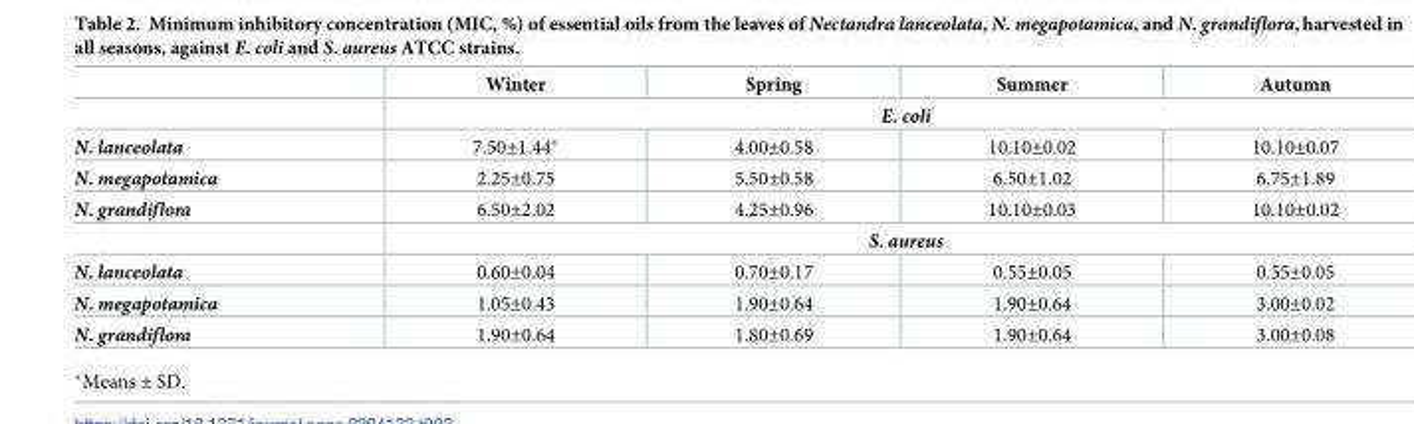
<table><thead><tr><td></td><td>Winter</td><td>Spring</td><td>Summer</td><td>Autumn</td></tr></thead><tbody><tr><td></td><td colspan="4">E. coli</td></tr><tr><td>N. lanceolata</td><td>7.50±1.44*</td><td>4.00±0.58</td><td>10.10±0.02</td><td>10.10±0.07</td></tr><tr><td>N. megapotamica</td><td>2.25±0.75</td><td>5.50±0.58</td><td>6.50±1.02</td><td>6.75±1.89</td></tr><tr><td rowspan="2">N. grandiflora</td><td>6.50±2.02</td><td>4.25±0.96</td><td>10.10±0.03</td><td>10.10±0.02</td></tr><tr><td colspan="4">S. aureus</td></tr><tr><td>N. lanceolata</td><td>0.60±0.04</td><td>0.70±0.17</td><td>0.55±0.05</td><td>0.55±0.05</td></tr><tr><td>N. megapotamica</td><td>1.05±0.43</td><td>1.90±0.64</td><td>1.90±0.64</td><td>3.00±0.02</td></tr><tr><td>N. grandiflora</td><td>1.90±0.64</td><td>1.80±0.69</td><td>1.90±0.64</td><td>3.00±0.08</td></tr></tbody></table>